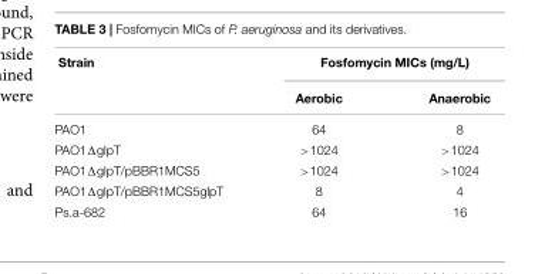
<table><thead><tr><td rowspan="2">Strain</td><td colspan="2">Fosfomycin MICs (mg/L)</td></tr><tr><td>Aerobic</td><td>Anaerobic</td></tr></thead><tbody><tr><td>PAO1</td><td>64</td><td>8</td></tr><tr><td>PAO1ΔglpT</td><td>&gt;1024</td><td>&gt;1024</td></tr><tr><td>PAO1ΔglpT/pBBR1MCS5</td><td>&gt;1024</td><td>&gt;1024</td></tr><tr><td>PAO1ΔglpT/pBBR1MCS5glpT</td><td>8</td><td>4</td></tr><tr><td>Ps.a-682</td><td>64</td><td>16</td></tr></tbody></table>